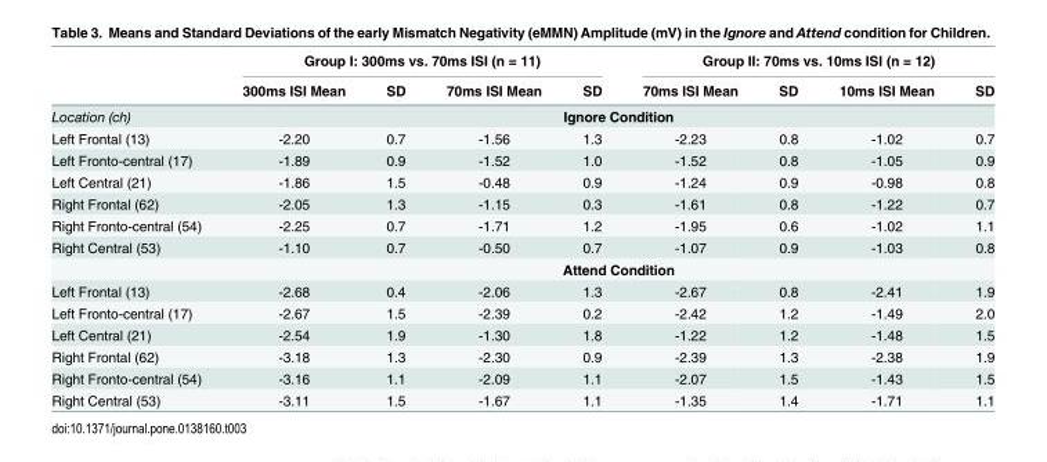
<table><thead><tr><td rowspan="2"></td><td colspan="4">Group I: 300ms vs. 70ms ISI (n = 11)</td><td colspan="4">Group II: 70ms vs. 10ms ISI (n = 12)</td></tr><tr><td>300ms ISI Mean</td><td>SD</td><td>70ms ISI Mean</td><td>SD</td><td>70ms ISI Mean</td><td>SD</td><td>10ms ISI Mean</td><td>SD</td></tr></thead><tbody><tr><td>Location (ch)</td><td colspan="8">Ignore Condition</td></tr><tr><td>Left Frontal (13)</td><td>-2.20</td><td>0.7</td><td>-1.56</td><td>1.3</td><td>-2.23</td><td>0.8</td><td>-1.02</td><td>0.7</td></tr><tr><td>Left Fronto-central (17)</td><td>-1.89</td><td>0.9</td><td>-1.52</td><td>1.0</td><td>-1.52</td><td>0.8</td><td>-1.05</td><td>0.9</td></tr><tr><td>Left Central (21)</td><td>-1.86</td><td>1.5</td><td>-0.48</td><td>0.9</td><td>-1.24</td><td>0.9</td><td>-0.98</td><td>0.8</td></tr><tr><td>Right Frontal (62)</td><td>-2.05</td><td>1.3</td><td>-1.15</td><td>0.3</td><td>-1.61</td><td>0.8</td><td>-1.22</td><td>0.7</td></tr><tr><td>Right Fronto-central (54)</td><td>-2.25</td><td>0.7</td><td>-1.71</td><td>1.2</td><td>-1.95</td><td>0.6</td><td>-1.02</td><td>1.1</td></tr><tr><td rowspan="2">Right Central (53)</td><td>-1.10</td><td>0.7</td><td>-0.50</td><td>0.7</td><td>-1.07</td><td>0.9</td><td>-1.03</td><td>0.8</td></tr><tr><td colspan="8">Attend Condition</td></tr><tr><td>Left Frontal (13)</td><td>-2.68</td><td>0.4</td><td>-2.06</td><td>1.3</td><td>-2.67</td><td>0.8</td><td>-2.41</td><td>1.9</td></tr><tr><td>Left Fronto-central (17)</td><td>-2.67</td><td>1.5</td><td>-2.39</td><td>0.2</td><td>-2.42</td><td>1.2</td><td>-1.49</td><td>2.0</td></tr><tr><td>Left Central (21)</td><td>-2.54</td><td>1.9</td><td>-1.30</td><td>1.8</td><td>-1.22</td><td>1.2</td><td>-1.48</td><td>1.5</td></tr><tr><td>Right Frontal (62)</td><td>-3.18</td><td>1.3</td><td>-2.30</td><td>0.9</td><td>-2.39</td><td>1.3</td><td>-2.38</td><td>1.9</td></tr><tr><td>Right Fronto-central (54)</td><td>-3.16</td><td>1.1</td><td>-2.09</td><td>1.1</td><td>-2.07</td><td>1.5</td><td>-1.43</td><td>1.5</td></tr><tr><td>Right Central (53)</td><td>-3.11</td><td>1.5</td><td>-1.67</td><td>1.1</td><td>-1.35</td><td>1.4</td><td>-1.71</td><td>1.1</td></tr></tbody></table>